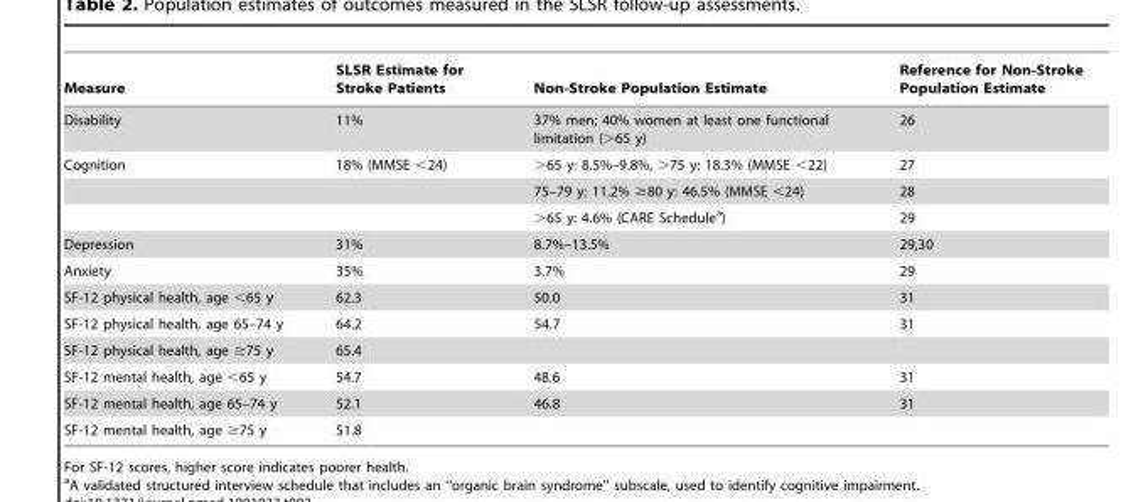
<table><thead><tr><td>Measure</td><td>SLSR Estimate for Stroke Patients</td><td>Non-Stroke Population Estimate</td><td>Reference for Non-Stroke Population Estimate</td></tr></thead><tbody><tr><td>Disability</td><td>11%</td><td>37% men; 40% women at least one functional limitation (&gt;65 y)</td><td>26</td></tr><tr><td rowspan="3">Cognition</td><td>18% (MMSE &lt;24)</td><td>&gt;65 y: 8.5%–9.8%, &gt;75 y: 18.3% (MMSE &lt;22)</td><td>27</td></tr><tr><td></td><td>75–79 y: 11.2% ≥80 y: 46.5% (MMSE &lt;24)</td><td>28</td></tr><tr><td></td><td>&gt;65 y: 4.6% (CARE Schedule<sup>a</sup>)</td><td>29</td></tr><tr><td>Depression</td><td>31%</td><td>8.7%–13.5%</td><td>29,30</td></tr><tr><td>Anxiety</td><td>35%</td><td>3.7%</td><td>29</td></tr><tr><td>SF-12 physical health, age &lt;65 y</td><td>62.3</td><td>50.0</td><td>31</td></tr><tr><td>SF-12 physical health, age 65–74 y</td><td>64.2</td><td>54.7</td><td>31</td></tr><tr><td>SF-12 physical health, age ≥75 y</td><td>65.4</td><td></td><td></td></tr><tr><td>SF-12 mental health, age &lt;65 y</td><td>54.7</td><td>48.6</td><td>31</td></tr><tr><td>SF-12 mental health, age 65–74 y</td><td>52.1</td><td>46.8</td><td>31</td></tr><tr><td>SF-12 mental health, age ≥75 y</td><td>51.8</td><td></td><td></td></tr></tbody></table>